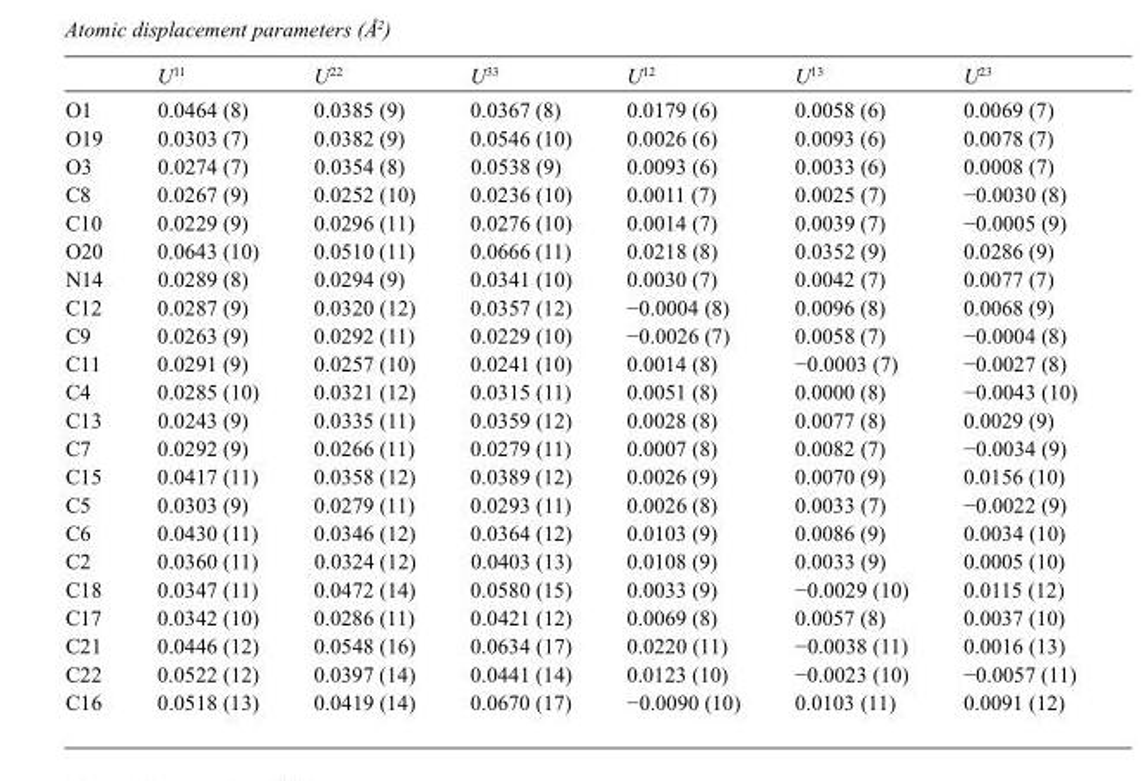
<table><thead><tr><td></td><td>U<sup>11</sup></td><td>U<sup>22</sup></td><td>U<sup>33</sup></td><td>U<sup>12</sup></td><td>U<sup>13</sup></td><td>U<sup>23</sup></td></tr></thead><tbody><tr><td>O1</td><td>0.0464 (8)</td><td>0.0385 (9)</td><td>0.0367 (8)</td><td>0.0179 (6)</td><td>0.0058 (6)</td><td>0.0069 (7)</td></tr><tr><td>O19</td><td>0.0303 (7)</td><td>0.0382 (9)</td><td>0.0546 (10)</td><td>0.0026 (6)</td><td>0.0093 (6)</td><td>0.0078 (7)</td></tr><tr><td>O3</td><td>0.0274 (7)</td><td>0.0354 (8)</td><td>0.0538 (9)</td><td>0.0093 (6)</td><td>0.0033 (6)</td><td>0.0008 (7)</td></tr><tr><td>C8</td><td>0.0267 (9)</td><td>0.0252 (10)</td><td>0.0236 (10)</td><td>0.0011 (7)</td><td>0.0025 (7)</td><td>−0.0030 (8)</td></tr><tr><td>C10</td><td>0.0229 (9)</td><td>0.0296 (11)</td><td>0.0276 (10)</td><td>0.0014 (7)</td><td>0.0039 (7)</td><td>−0.0005 (9)</td></tr><tr><td>O20</td><td>0.0643 (10)</td><td>0.0510 (11)</td><td>0.0666 (11)</td><td>0.0218 (8)</td><td>0.0352 (9)</td><td>0.0286 (9)</td></tr><tr><td>N14</td><td>0.0289 (8)</td><td>0.0294 (9)</td><td>0.0341 (10)</td><td>0.0030 (7)</td><td>0.0042 (7)</td><td>0.0077 (7)</td></tr><tr><td>C12</td><td>0.0287 (9)</td><td>0.0320 (12)</td><td>0.0357 (12)</td><td>−0.0004 (8)</td><td>0.0096 (8)</td><td>0.0068 (9)</td></tr><tr><td>C9</td><td>0.0263 (9)</td><td>0.0292 (11)</td><td>0.0229 (10)</td><td>−0.0026 (7)</td><td>0.0058 (7)</td><td>−0.0004 (8)</td></tr><tr><td>C11</td><td>0.0291 (9)</td><td>0.0257 (10)</td><td>0.0241 (10)</td><td>0.0014 (8)</td><td>−0.0003 (7)</td><td>−0.0027 (8)</td></tr><tr><td>C4</td><td>0.0285 (10)</td><td>0.0321 (12)</td><td>0.0315 (11)</td><td>0.0051 (8)</td><td>0.0000 (8)</td><td>−0.0043 (10)</td></tr><tr><td>C13</td><td>0.0243 (9)</td><td>0.0335 (11)</td><td>0.0359 (12)</td><td>0.0028 (8)</td><td>0.0077 (8)</td><td>0.0029 (9)</td></tr><tr><td>C7</td><td>0.0292 (9)</td><td>0.0266 (11)</td><td>0.0279 (11)</td><td>0.0007 (8)</td><td>0.0082 (7)</td><td>−0.0034 (9)</td></tr><tr><td>C15</td><td>0.0417 (11)</td><td>0.0358 (12)</td><td>0.0389 (12)</td><td>0.0026 (9)</td><td>0.0070 (9)</td><td>0.0156 (10)</td></tr><tr><td>C5</td><td>0.0303 (9)</td><td>0.0279 (11)</td><td>0.0293 (11)</td><td>0.0026 (8)</td><td>0.0033 (7)</td><td>−0.0022 (9)</td></tr><tr><td>C6</td><td>0.0430 (11)</td><td>0.0346 (12)</td><td>0.0364 (12)</td><td>0.0103 (9)</td><td>0.0086 (9)</td><td>0.0034 (10)</td></tr><tr><td>C2</td><td>0.0360 (11)</td><td>0.0324 (12)</td><td>0.0403 (13)</td><td>0.0108 (9)</td><td>0.0033 (9)</td><td>0.0005 (10)</td></tr><tr><td>C18</td><td>0.0347 (11)</td><td>0.0472 (14)</td><td>0.0580 (15)</td><td>0.0033 (9)</td><td>−0.0029 (10)</td><td>0.0115 (12)</td></tr><tr><td>C17</td><td>0.0342 (10)</td><td>0.0286 (11)</td><td>0.0421 (12)</td><td>0.0069 (8)</td><td>0.0057 (8)</td><td>0.0037 (10)</td></tr><tr><td>C21</td><td>0.0446 (12)</td><td>0.0548 (16)</td><td>0.0634 (17)</td><td>0.0220 (11)</td><td>−0.0038 (11)</td><td>0.0016 (13)</td></tr><tr><td>C22</td><td>0.0522 (12)</td><td>0.0397 (14)</td><td>0.0441 (14)</td><td>0.0123 (10)</td><td>−0.0023 (10)</td><td>−0.0057 (11)</td></tr><tr><td>C16</td><td>0.0518 (13)</td><td>0.0419 (14)</td><td>0.0670 (17)</td><td>−0.0090 (10)</td><td>0.0103 (11)</td><td>0.0091 (12)</td></tr></tbody></table>